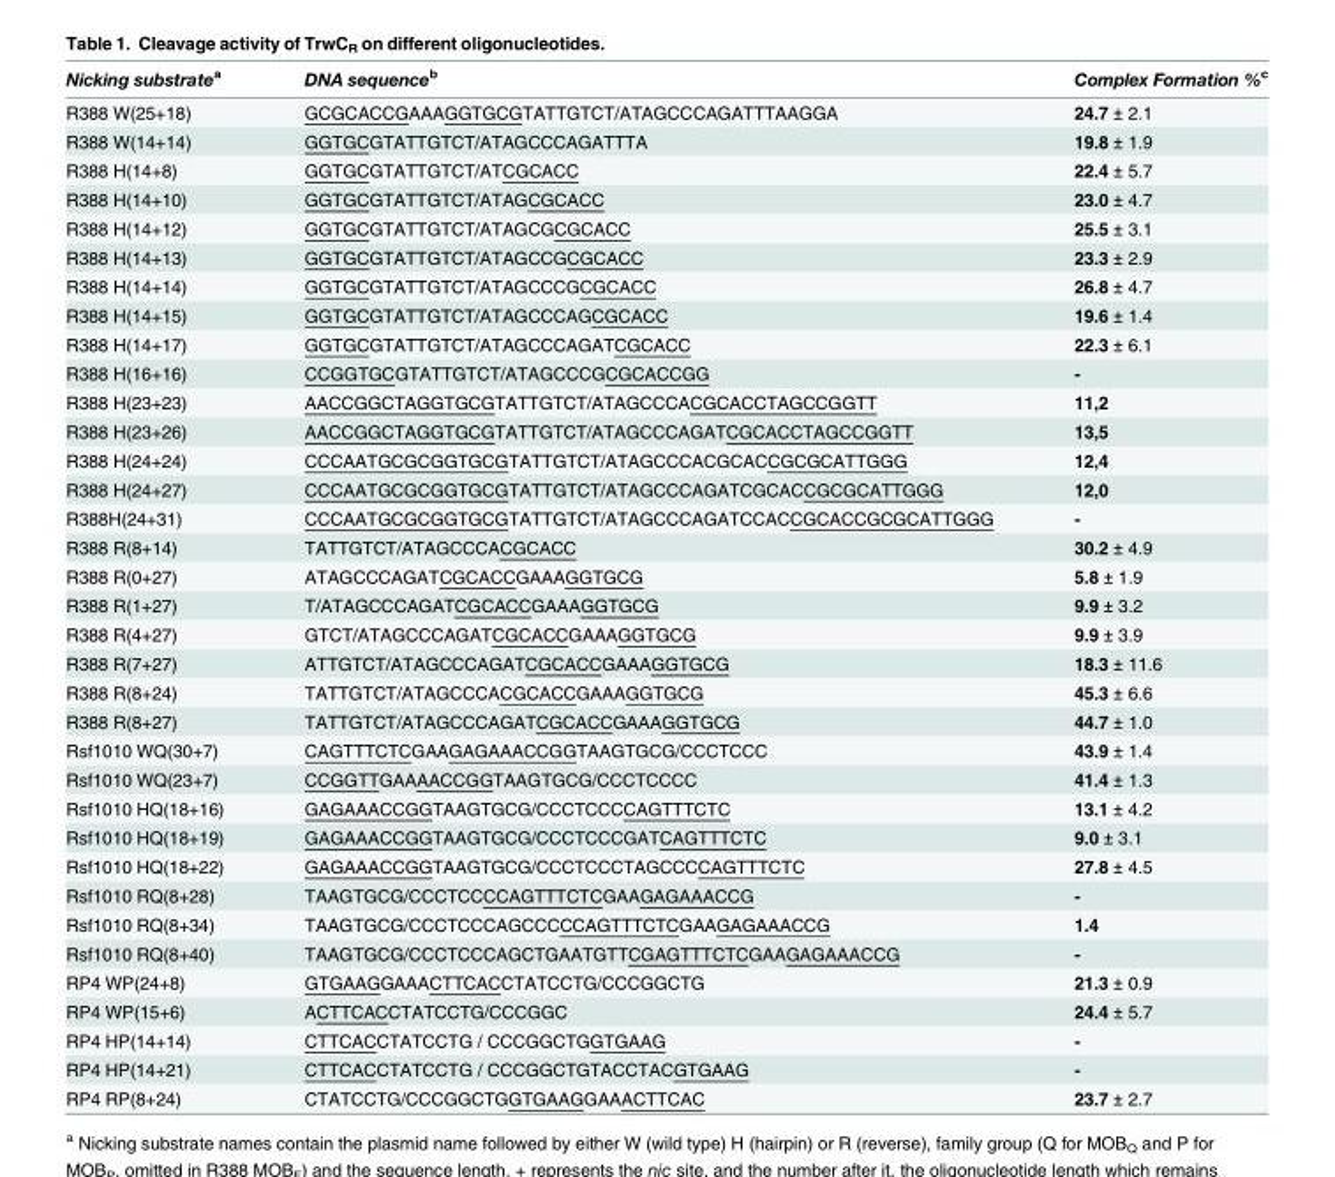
<table><thead><tr><td>Nicking substrate<sup>a</sup></td><td>DNA sequence<sup>b</sup></td><td>Complex Formation %<sup>c</sup></td></tr></thead><tbody><tr><td>R388 W(25+18)</td><td>GCGCACCGAAAGGTGCGTATTGTCT/ATAGCCCAGATTTAAGGA</td><td>24.7 ± 2.1</td></tr><tr><td>R388 W(14+14)</td><td>GGTGCGTATTGTCT/ATAGCCCAGATTTA</td><td>19.8 ± 1.9</td></tr><tr><td>R388 H(14+8)</td><td>GGTGCGTATTGTCT/ATCGCACC</td><td>22.4 ± 5.7</td></tr><tr><td>R388 H(14+10)</td><td>GGTGCGTATTGTCT/ATAGCGCACC</td><td>23.0 ± 4.7</td></tr><tr><td>R388 H(14+12)</td><td>GGTGCGTATTGTCT/ATAGCGCGCACC</td><td>25.5 ± 3.1</td></tr><tr><td>R388 H(14+13)</td><td>GGTGCGTATTGTCT/ATAGCCGCGCACC</td><td>23.3 ± 2.9</td></tr><tr><td>R388 H(14+14)</td><td>GGTGCGTATTGTCT/ATAGCCCGCGCACC</td><td>26.8 ± 4.7</td></tr><tr><td>R388 H(14+15)</td><td>GGTGCGTATTGTCT/ATAGCCCAGCGCACC</td><td>19.6 ± 1.4</td></tr><tr><td>R388 H(14+17)</td><td>GGTGCGTATTGTCT/ATAGCCCAGATCGCACC</td><td>22.3 ± 6.1</td></tr><tr><td>R388 H(16+16)</td><td>CCGGTGCGTATTGTCT/ATAGCCCGCGCACCGG</td><td>-</td></tr><tr><td>R388 H(23+23)</td><td>AACCGGCTAGGTGCGTATTGTCT/ATAGCCCACGCACCTAGCCGGTT</td><td>11,2</td></tr><tr><td>R388 H(23+26)</td><td>AACCGGCTAGGTGCGTATTGTCT/ATAGCCCAGATCGCACCTAGCCGGTT</td><td>13,5</td></tr><tr><td>R388 H(24+24)</td><td>CCCAATGCGCGGTGCGTATTGTCT/ATAGCCCACGCACCGCGCATTGGG</td><td>12,4</td></tr><tr><td>R388 H(24+27)</td><td>CCCAATGCGCGGTGCGTATTGTCT/ATAGCCCAGATCGCACCGCGCATTGGG</td><td>12,0</td></tr><tr><td>R388H(24+31)</td><td>CCCAATGCGCGGTGCGTATTGTCT/ATAGCCCAGATCCACCGCACCGCGCATTGGG</td><td>-</td></tr><tr><td>R388 R(8+14)</td><td>TATTGTCT/ATAGCCCACGCACC</td><td>30.2 ± 4.9</td></tr><tr><td>R388 R(0+27)</td><td>ATAGCCCAGATCGCACCGAAAGGTGCG</td><td>5.8 ± 1.9</td></tr><tr><td>R388 R(1+27)</td><td>T/ATAGCCCAGATCGCACCGAAAGGTGCG</td><td>9.9 ± 3.2</td></tr><tr><td>R388 R(4+27)</td><td>GTCT/ATAGCCCAGATCGCACCGAAAGGTGCG</td><td>9.9 ± 3.9</td></tr><tr><td>R388 R(7+27)</td><td>ATTGTCT/ATAGCCCAGATCGCACCGAAAGGTGCG</td><td>18.3 ± 11.6</td></tr><tr><td>R388 R(8+24)</td><td>TATTGTCT/ATAGCCCACGCACCGAAAGGTGCG</td><td>45.3 ± 6.6</td></tr><tr><td>R388 R(8+27)</td><td>TATTGTCT/ATAGCCCAGATCGCACCGAAAGGTGCG</td><td>44.7 ± 1.0</td></tr><tr><td>Rsf1010 WQ(30+7)</td><td>CAGTTTCTCGAAGAGAAACCGGTAAGTGCG/CCCTCCC</td><td>43.9 ± 1.4</td></tr><tr><td>Rsf1010 WQ(23+7)</td><td>CCGGTTGAAAACCGGTAAGTGCG/CCCTCCCC</td><td>41.4 ± 1.3</td></tr><tr><td>Rsf1010 HQ(18+16)</td><td>GAGAAACCGGTAAGTGCG/CCCTCCCCAGTTTCTC</td><td>13.1 ± 4.2</td></tr><tr><td>Rsf1010 HQ(18+19)</td><td>GAGAAACCGGTAAGTGCG/CCCTCCCGATCAGTTTCTC</td><td>9.0 ± 3.1</td></tr><tr><td>Rsf1010 HQ(18+22)</td><td>GAGAAACCGGTAAGTGCG/CCCTCCCTAGCCCCAGTTTCTC</td><td>27.8 ± 4.5</td></tr><tr><td>Rsf1010 RQ(8+28)</td><td>TAAGTGCG/CCCTCCCCAGTTTCTCGAAGAGAAACCG</td><td>-</td></tr><tr><td>Rsf1010 RQ(8+34)</td><td>TAAGTGCG/CCCTCCCAGCCCCCAGTTTCTCGAAGAGAAACCG</td><td>1.4</td></tr><tr><td>Rsf1010 RQ(8+40)</td><td>TAAGTGCG/CCCTCCCAGCTGAATGTTCGAGTTTCTCGAAGAGAAACCG</td><td>-</td></tr><tr><td>RP4 WP(24+8)</td><td>GTGAAGGAAACTTCACCTATCCTG/CCCGGCTG</td><td>21.3 ± 0.9</td></tr><tr><td>RP4 WP(15+6)</td><td>ACTTCACCTATCCTG/CCCGGC</td><td>24.4 ± 5.7</td></tr><tr><td>RP4 HP(14+14)</td><td>CTTCACCTATCCTG / CCCGGCTGGTGAAG</td><td>-</td></tr><tr><td>RP4 HP(14+21)</td><td>CTTCACCTATCCTG / CCCGGCTGTACCTACGTGAAG</td><td>-</td></tr><tr><td>RP4 RP(8+24)</td><td>CTATCCTG/CCCGGCTGGTGAAGGAAACTTCAC</td><td>23.7 ± 2.7</td></tr></tbody></table>